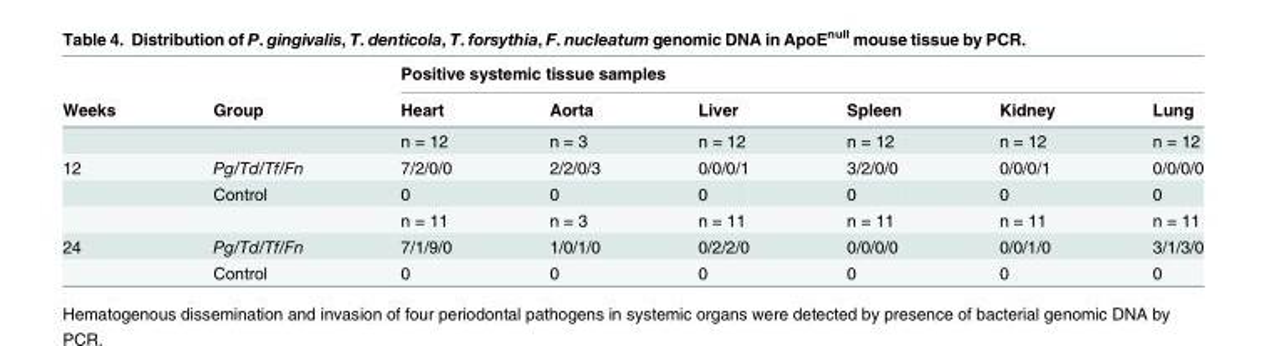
<table><thead><tr><td rowspan="2">Weeks</td><td rowspan="2">Group</td><td colspan="6">Positive systemic tissue samples</td></tr><tr><td>Heart</td><td>Aorta</td><td>Liver</td><td>Spleen</td><td>Kidney</td><td>Lung</td></tr></thead><tbody><tr><td></td><td></td><td>n = 12</td><td>n = 3</td><td>n = 12</td><td>n = 12</td><td>n = 12</td><td>n = 12</td></tr><tr><td rowspan="3">12</td><td>Pg/Td/Tf/Fn</td><td>7/2/0/0</td><td>2/2/0/3</td><td>0/0/0/1</td><td>3/2/0/0</td><td>0/0/0/1</td><td>0/0/0/0</td></tr><tr><td>Control</td><td>0</td><td>0</td><td>0</td><td>0</td><td>0</td><td>0</td></tr><tr><td></td><td>n = 11</td><td>n = 3</td><td>n = 11</td><td>n = 11</td><td>n = 11</td><td>n = 11</td></tr><tr><td rowspan="2">24</td><td>Pg/Td/Tf/Fn</td><td>7/1/9/0</td><td>1/0/1/0</td><td>0/2/2/0</td><td>0/0/0/0</td><td>0/0/1/0</td><td>3/1/3/0</td></tr><tr><td>Control</td><td>0</td><td>0</td><td>0</td><td>0</td><td>0</td><td>0</td></tr></tbody></table>